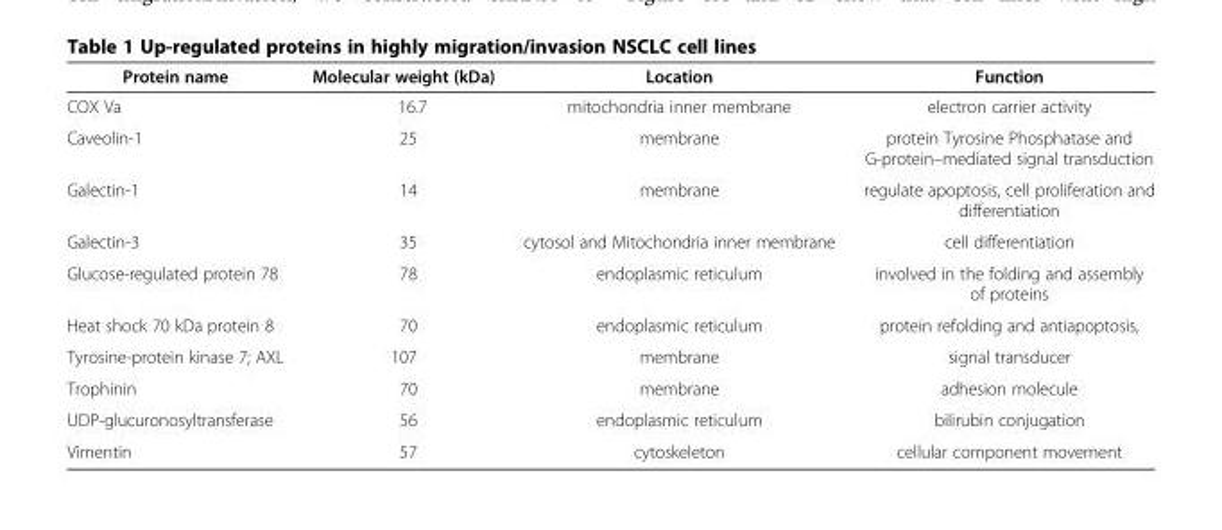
<table><thead><tr><td>Protein name</td><td>Molecular weight (kDa)</td><td>Location</td><td>Function</td></tr></thead><tbody><tr><td>COX Va</td><td>16.7</td><td>mitochondria inner membrane</td><td>electron carrier activity</td></tr><tr><td>Caveolin-1</td><td>25</td><td>membrane</td><td>protein Tyrosine Phosphatase and G-protein–mediated signal transduction</td></tr><tr><td>Galectin-1</td><td>14</td><td>membrane</td><td>regulate apoptosis, cell proliferation and differentiation</td></tr><tr><td>Galectin-3</td><td>35</td><td>cytosol and Mitochondria inner membrane</td><td>cell differentiation</td></tr><tr><td>Glucose-regulated protein 78</td><td>78</td><td>endoplasmic reticulum</td><td>involved in the folding and assembly of proteins</td></tr><tr><td>Heat shock 70 kDa protein 8</td><td>70</td><td>endoplasmic reticulum</td><td>protein refolding and antiapoptosis,</td></tr><tr><td>Tyrosine-protein kinase 7; AXL</td><td>107</td><td>membrane</td><td>signal transducer</td></tr><tr><td>Trophinin</td><td>70</td><td>membrane</td><td>adhesion molecule</td></tr><tr><td>UDP-glucuronosyltransferase</td><td>56</td><td>endoplasmic reticulum</td><td>bilirubin conjugation</td></tr><tr><td>Vimentin</td><td>57</td><td>cytoskeleton</td><td>cellular component movement</td></tr></tbody></table>